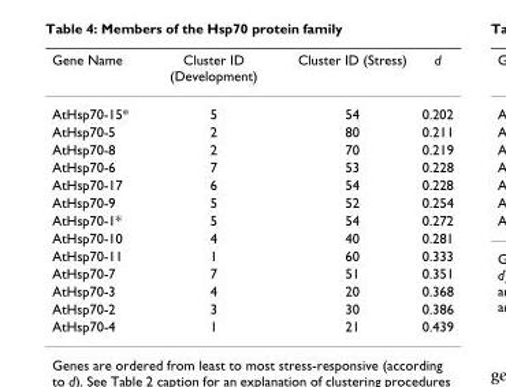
<table><thead><tr><td>Gene Name</td><td>Cluster ID (Development)</td><td>Cluster ID (Stress)</td><td>d</td></tr></thead><tbody><tr><td>AtHsp70-15*</td><td>5</td><td>54</td><td>0.202</td></tr><tr><td>AtHsp70-5</td><td>2</td><td>80</td><td>0.211</td></tr><tr><td>AtHsp70-8</td><td>2</td><td>70</td><td>0.219</td></tr><tr><td>AtHsp70-6</td><td>7</td><td>53</td><td>0.228</td></tr><tr><td>AtHsp70-17</td><td>6</td><td>54</td><td>0.228</td></tr><tr><td>AtHsp70-9</td><td>5</td><td>52</td><td>0.254</td></tr><tr><td>AtHsp70-1*</td><td>5</td><td>54</td><td>0.272</td></tr><tr><td>AtHsp70-10</td><td>4</td><td>40</td><td>0.281</td></tr><tr><td>AtHsp70-11</td><td>1</td><td>60</td><td>0.333</td></tr><tr><td>AtHsp70-7</td><td>7</td><td>51</td><td>0.351</td></tr><tr><td>AtHsp70-3</td><td>4</td><td>20</td><td>0.368</td></tr><tr><td>AtHsp70-2</td><td>3</td><td>30</td><td>0.386</td></tr><tr><td>AtHsp70-4</td><td>1</td><td>21</td><td>0.439</td></tr></tbody></table>